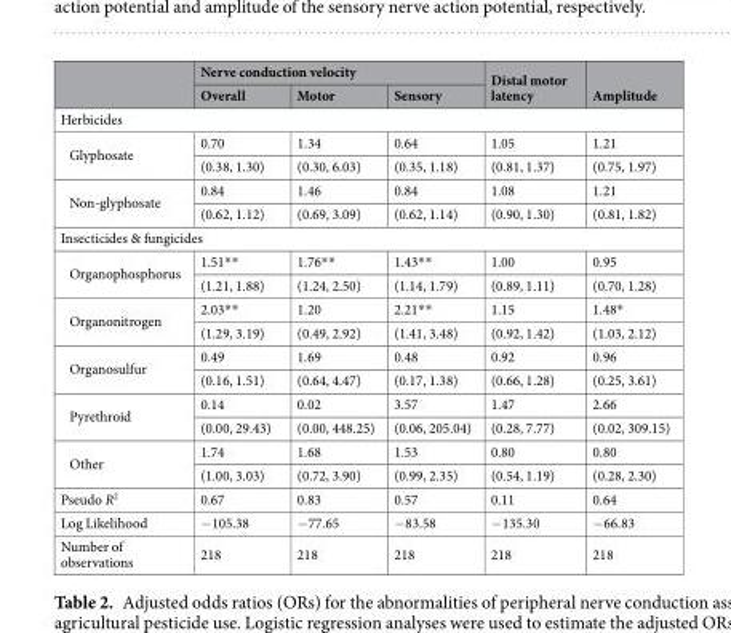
<table><thead><tr><td rowspan="2"></td><td colspan="3">Nerve conduction velocity</td><td rowspan="2">Distal motor latency</td><td rowspan="2">Amplitude</td></tr><tr><td>Overall</td><td>Motor</td><td>Sensory</td></tr></thead><tbody><tr><td colspan="6">Herbicides</td></tr><tr><td rowspan="2">Glyphosate</td><td>0.70</td><td>1.34</td><td>0.64</td><td>1.05</td><td>1.21</td></tr><tr><td>(0.38, 1.30)</td><td>(0.30, 6.03)</td><td>(0.35, 1.18)</td><td>(0.81, 1.37)</td><td>(0.75, 1.97)</td></tr><tr><td rowspan="2">Non-glyphosate</td><td>0.84</td><td>1.46</td><td>0.84</td><td>1.08</td><td>1.21</td></tr><tr><td>(0.62, 1.12)</td><td>(0.69, 3.09)</td><td>(0.62, 1.14)</td><td>(0.90, 1.30)</td><td>(0.81, 1.82)</td></tr><tr><td colspan="6">Insecticides &amp; fungicides</td></tr><tr><td rowspan="2">Organophosphorus</td><td>1.51**</td><td>1.76**</td><td>1.43**</td><td>1.00</td><td>0.95</td></tr><tr><td>(1.21, 1.88)</td><td>(1.24, 2.50)</td><td>(1.14, 1.79)</td><td>(0.89, 1.11)</td><td>(0.70, 1.28)</td></tr><tr><td rowspan="2">Organonitrogen</td><td>2.03**</td><td>1.20</td><td>2.21**</td><td>1.15</td><td>1.48*</td></tr><tr><td>(1.29, 3.19)</td><td>(0.49, 2.92)</td><td>(1.41, 3.48)</td><td>(0.92, 1.42)</td><td>(1.03, 2.12)</td></tr><tr><td rowspan="2">Organosulfur</td><td>0.49</td><td>1.69</td><td>0.48</td><td>0.92</td><td>0.96</td></tr><tr><td>(0.16, 1.51)</td><td>(0.64, 4.47)</td><td>(0.17, 1.38)</td><td>(0.66, 1.28)</td><td>(0.25, 3.61)</td></tr><tr><td rowspan="2">Pyrethroid</td><td>0.14</td><td>0.02</td><td>3.57</td><td>1.47</td><td>2.66</td></tr><tr><td>(0.00, 29.43)</td><td>(0.00, 448.25)</td><td>(0.06, 205.04)</td><td>(0.28, 7.77)</td><td>(0.02, 309.15)</td></tr><tr><td rowspan="2">Other</td><td>1.74</td><td>1.68</td><td>1.53</td><td>0.80</td><td>0.80</td></tr><tr><td>(1.00, 3.03)</td><td>(0.72, 3.90)</td><td>(0.99, 2.35)</td><td>(0.54, 1.19)</td><td>(0.28, 2.30)</td></tr><tr><td>Pseudo R<sup>2</sup></td><td>0.67</td><td>0.83</td><td>0.57</td><td>0.11</td><td>0.64</td></tr><tr><td>Log Likelihood</td><td>−105.38</td><td>−77.65</td><td>−83.58</td><td>−135.30</td><td>−66.83</td></tr><tr><td>Number of observations</td><td>218</td><td>218</td><td>218</td><td>218</td><td>218</td></tr></tbody></table>